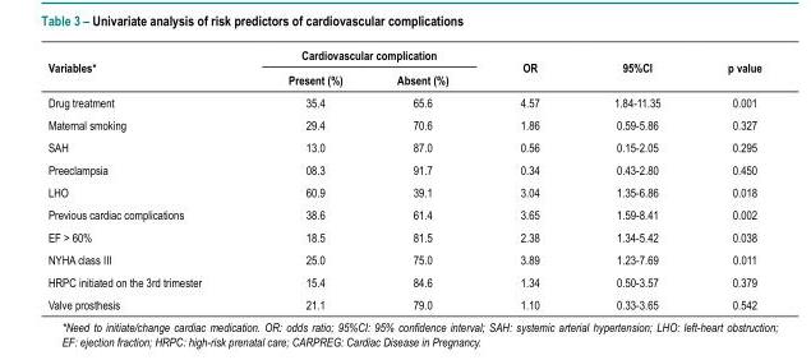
<table><thead><tr><td rowspan="2">Variables*</td><td colspan="2">Cardiovascular complication</td><td rowspan="2">OR</td><td rowspan="2">95%CI</td><td rowspan="2">p value</td></tr><tr><td>Present (%)</td><td>Absent (%)</td></tr></thead><tbody><tr><td>Drug treatment</td><td>35.4</td><td>65.6</td><td>4.57</td><td>1.84-11.35</td><td>0.001</td></tr><tr><td>Maternal smoking</td><td>29.4</td><td>70.6</td><td>1.86</td><td>0.59-5.86</td><td>0.327</td></tr><tr><td>SAH</td><td>13.0</td><td>87.0</td><td>0.56</td><td>0.15-2.05</td><td>0.295</td></tr><tr><td>Preeclampsia</td><td>08.3</td><td>91.7</td><td>0.34</td><td>0.43-2.80</td><td>0.450</td></tr><tr><td>LHO</td><td>60.9</td><td>39.1</td><td>3.04</td><td>1.35-6.86</td><td>0.018</td></tr><tr><td>Previous cardiac complications</td><td>38.6</td><td>61.4</td><td>3.65</td><td>1.59-8.41</td><td>0.002</td></tr><tr><td>EF &gt; 60%</td><td>18.5</td><td>81.5</td><td>2.38</td><td>1.34-5.42</td><td>0.038</td></tr><tr><td>NYHA class III</td><td>25.0</td><td>75.0</td><td>3.89</td><td>1.23-7.69</td><td>0.011</td></tr><tr><td>HRPC initiated on the 3rd trimester</td><td>15.4</td><td>84.6</td><td>1.34</td><td>0.50-3.57</td><td>0.379</td></tr><tr><td>Valve prosthesis</td><td>21.1</td><td>79.0</td><td>1.10</td><td>0.33-3.65</td><td>0.542</td></tr></tbody></table>